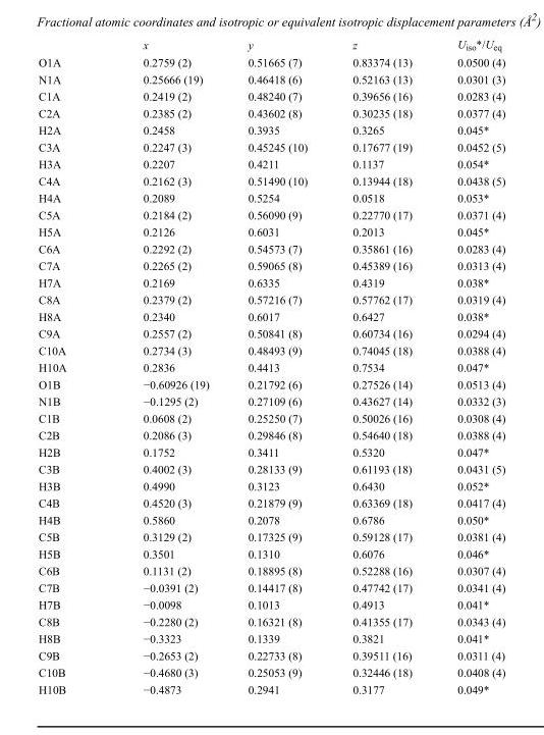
<table><thead><tr><td></td><td>x</td><td>y</td><td>z</td><td>U<sub>iso</sub>*/U<sub>eq</sub></td></tr></thead><tbody><tr><td>O1A</td><td>0.2759 (2)</td><td>0.51665 (7)</td><td>0.83374 (13)</td><td>0.0500 (4)</td></tr><tr><td>N1A</td><td>0.25666 (19)</td><td>0.46418 (6)</td><td>0.52163 (13)</td><td>0.0301 (3)</td></tr><tr><td>C1A</td><td>0.2419 (2)</td><td>0.48240 (7)</td><td>0.39656 (16)</td><td>0.0283 (4)</td></tr><tr><td>C2A</td><td>0.2385 (2)</td><td>0.43602 (8)</td><td>0.30235 (18)</td><td>0.0377 (4)</td></tr><tr><td>H2A</td><td>0.2458</td><td>0.3935</td><td>0.3265</td><td>0.045*</td></tr><tr><td>C3A</td><td>0.2247 (3)</td><td>0.45245 (10)</td><td>0.17677 (19)</td><td>0.0452 (5)</td></tr><tr><td>H3A</td><td>0.2207</td><td>0.4211</td><td>0.1137</td><td>0.054*</td></tr><tr><td>C4A</td><td>0.2162 (3)</td><td>0.51490 (10)</td><td>0.13944 (18)</td><td>0.0438 (5)</td></tr><tr><td>H4A</td><td>0.2089</td><td>0.5254</td><td>0.0518</td><td>0.053*</td></tr><tr><td>C5A</td><td>0.2184 (2)</td><td>0.56090 (9)</td><td>0.22770 (17)</td><td>0.0371 (4)</td></tr><tr><td>H5A</td><td>0.2126</td><td>0.6031</td><td>0.2013</td><td>0.045*</td></tr><tr><td>C6A</td><td>0.2292 (2)</td><td>0.54573 (7)</td><td>0.35861 (16)</td><td>0.0283 (4)</td></tr><tr><td>C7A</td><td>0.2265 (2)</td><td>0.59065 (8)</td><td>0.45389 (16)</td><td>0.0313 (4)</td></tr><tr><td>H7A</td><td>0.2169</td><td>0.6335</td><td>0.4319</td><td>0.038*</td></tr><tr><td>C8A</td><td>0.2379 (2)</td><td>0.57216 (7)</td><td>0.57762 (17)</td><td>0.0319 (4)</td></tr><tr><td>H8A</td><td>0.2340</td><td>0.6017</td><td>0.6427</td><td>0.038*</td></tr><tr><td>C9A</td><td>0.2557 (2)</td><td>0.50841 (8)</td><td>0.60734 (16)</td><td>0.0294 (4)</td></tr><tr><td>C10A</td><td>0.2734 (3)</td><td>0.48493 (9)</td><td>0.74045 (18)</td><td>0.0388 (4)</td></tr><tr><td>H10A</td><td>0.2836</td><td>0.4413</td><td>0.7534</td><td>0.047*</td></tr><tr><td>O1B</td><td>−0.60926 (19)</td><td>0.21792 (6)</td><td>0.27526 (14)</td><td>0.0513 (4)</td></tr><tr><td>N1B</td><td>−0.1295 (2)</td><td>0.27109 (6)</td><td>0.43627 (14)</td><td>0.0332 (3)</td></tr><tr><td>C1B</td><td>0.0608 (2)</td><td>0.25250 (7)</td><td>0.50026 (16)</td><td>0.0308 (4)</td></tr><tr><td>C2B</td><td>0.2086 (3)</td><td>0.29846 (8)</td><td>0.54640 (18)</td><td>0.0388 (4)</td></tr><tr><td>H2B</td><td>0.1752</td><td>0.3411</td><td>0.5320</td><td>0.047*</td></tr><tr><td>C3B</td><td>0.4002 (3)</td><td>0.28133 (9)</td><td>0.61193 (18)</td><td>0.0431 (5)</td></tr><tr><td>H3B</td><td>0.4990</td><td>0.3123</td><td>0.6430</td><td>0.052*</td></tr><tr><td>C4B</td><td>0.4520 (3)</td><td>0.21879 (9)</td><td>0.63369 (18)</td><td>0.0417 (4)</td></tr><tr><td>H4B</td><td>0.5860</td><td>0.2078</td><td>0.6786</td><td>0.050*</td></tr><tr><td>C5B</td><td>0.3129 (2)</td><td>0.17325 (9)</td><td>0.59128 (17)</td><td>0.0381 (4)</td></tr><tr><td>H5B</td><td>0.3501</td><td>0.1310</td><td>0.6076</td><td>0.046*</td></tr><tr><td>C6B</td><td>0.1131 (2)</td><td>0.18895 (8)</td><td>0.52288 (16)</td><td>0.0307 (4)</td></tr><tr><td>C7B</td><td>−0.0391 (2)</td><td>0.14417 (8)</td><td>0.47742 (17)</td><td>0.0341 (4)</td></tr><tr><td>H7B</td><td>−0.0098</td><td>0.1013</td><td>0.4913</td><td>0.041*</td></tr><tr><td>C8B</td><td>−0.2280 (2)</td><td>0.16321 (8)</td><td>0.41355 (17)</td><td>0.0343 (4)</td></tr><tr><td>H8B</td><td>−0.3323</td><td>0.1339</td><td>0.3821</td><td>0.041*</td></tr><tr><td>C9B</td><td>−0.2653 (2)</td><td>0.22733 (8)</td><td>0.39511 (16)</td><td>0.0311 (4)</td></tr><tr><td>C10B</td><td>−0.4680 (3)</td><td>0.25053 (9)</td><td>0.32446 (18)</td><td>0.0408 (4)</td></tr><tr><td>H10B</td><td>−0.4873</td><td>0.2941</td><td>0.3177</td><td>0.049*</td></tr></tbody></table>